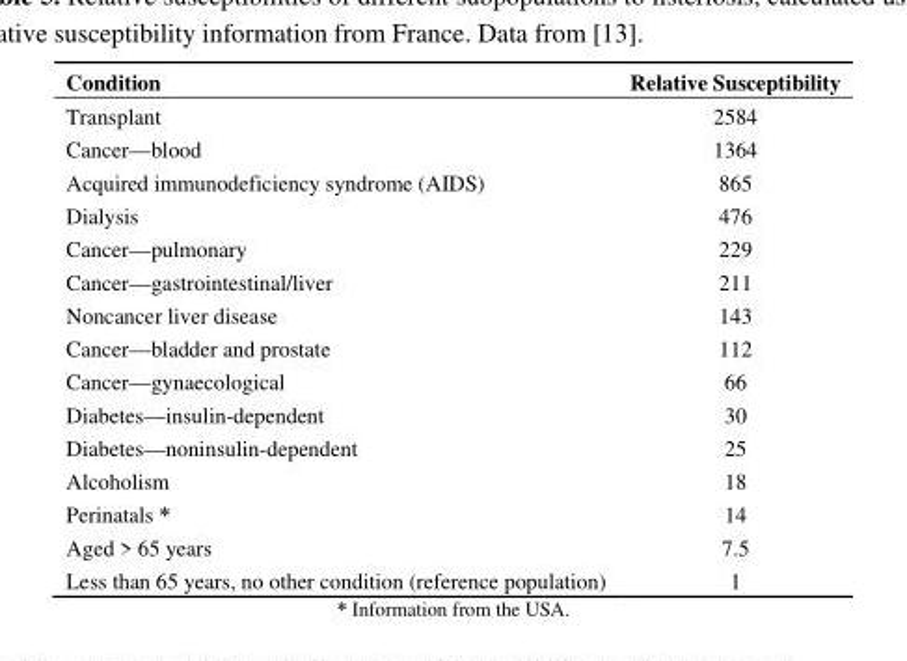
<table><thead><tr><td>Condition</td><td>Relative Susceptibility</td></tr></thead><tbody><tr><td>Transplant</td><td>2584</td></tr><tr><td>Cancer—blood</td><td>1364</td></tr><tr><td>Acquired immunodeficiency syndrome (AIDS)</td><td>865</td></tr><tr><td>Dialysis</td><td>476</td></tr><tr><td>Cancer—pulmonary</td><td>229</td></tr><tr><td>Cancer—gastrointestinal/liver</td><td>211</td></tr><tr><td>Noncancer liver disease</td><td>143</td></tr><tr><td>Cancer—bladder and prostate</td><td>112</td></tr><tr><td>Cancer—gynaecological</td><td>66</td></tr><tr><td>Diabetes—insulin-dependent</td><td>30</td></tr><tr><td>Diabetes—noninsulin-dependent</td><td>25</td></tr><tr><td>Alcoholism</td><td>18</td></tr><tr><td>Perinatals *</td><td>14</td></tr><tr><td>Aged &gt; 65 years</td><td>7.5</td></tr><tr><td>Less than 65 years, no other condition (reference population)</td><td>1</td></tr></tbody></table>